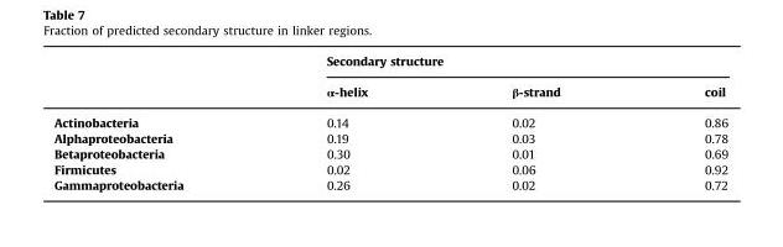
<table><thead><tr><td rowspan="2"></td><td colspan="3">Secondary structure</td></tr><tr><td>α-helix</td><td>β-strand</td><td>coil</td></tr></thead><tbody><tr><td>Actinobacteria</td><td>0.14</td><td>0.02</td><td>0.86</td></tr><tr><td>Alphaproteobacteria</td><td>0.19</td><td>0.03</td><td>0.78</td></tr><tr><td>Betaproteobacteria</td><td>0.30</td><td>0.01</td><td>0.69</td></tr><tr><td>Firmicutes</td><td>0.02</td><td>0.06</td><td>0.92</td></tr><tr><td>Gammaproteobacteria</td><td>0.26</td><td>0.02</td><td>0.72</td></tr></tbody></table>